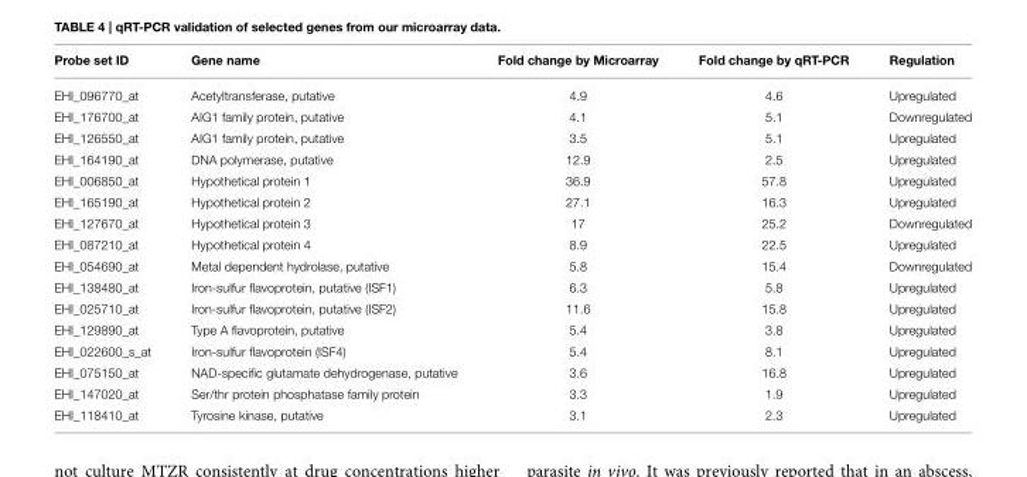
<table><thead><tr><td>Probe set ID</td><td>Gene name</td><td>Fold change by Microarray</td><td>Fold change by qRT-PCR</td><td>Regulation</td></tr></thead><tbody><tr><td>EHI_096770_at</td><td>Acetyltransferase, putative</td><td>4.9</td><td>4.6</td><td>Upregulated</td></tr><tr><td>EHI_176700_at</td><td>AIG1 family protein, putative</td><td>4.1</td><td>5.1</td><td>Downregulated</td></tr><tr><td>EHI_126550_at</td><td>AIG1 family protein, putative</td><td>3.5</td><td>5.1</td><td>Upregulated</td></tr><tr><td>EHI_164190_at</td><td>DNA polymerase, putative</td><td>12.9</td><td>2.5</td><td>Upregulated</td></tr><tr><td>EHI_006850_at</td><td>Hypothetical protein 1</td><td>36.9</td><td>57.8</td><td>Upregulated</td></tr><tr><td>EHI_165190_at</td><td>Hypothetical protein 2</td><td>27.1</td><td>16.3</td><td>Upregulated</td></tr><tr><td>EHI_127670_at</td><td>Hypothetical protein 3</td><td>17</td><td>25.2</td><td>Downregulated</td></tr><tr><td>EHI_087210_at</td><td>Hypothetical protein 4</td><td>8.9</td><td>22.5</td><td>Upregulated</td></tr><tr><td>EHI_054690_at</td><td>Metal dependent hydrolase, putative</td><td>5.8</td><td>15.4</td><td>Downregulated</td></tr><tr><td>EHI_138480_at</td><td>Iron-sulfur flavoprotein, putative (ISF1)</td><td>6.3</td><td>5.8</td><td>Upregulated</td></tr><tr><td>EHI_025710_at</td><td>Iron-sulfur flavoprotein, putative (ISF2)</td><td>11.6</td><td>15.8</td><td>Upregulated</td></tr><tr><td>EHI_129890_at</td><td>Type A flavoprotein, putative</td><td>5.4</td><td>3.8</td><td>Upregulated</td></tr><tr><td>EHI_022600_s_at</td><td>Iron-sulfur flavoprotein (ISF4)</td><td>5.4</td><td>8.1</td><td>Upregulated</td></tr><tr><td>EHI_075150_at</td><td>NAD-specific glutamate dehydrogenase, putative</td><td>3.6</td><td>16.8</td><td>Upregulated</td></tr><tr><td>EHI_147020_at</td><td>Ser/thr protein phosphatase family protein</td><td>3.3</td><td>1.9</td><td>Upregulated</td></tr><tr><td>EHI_118410_at</td><td>Tyrosine kinase, putative</td><td>3.1</td><td>2.3</td><td>Upregulated</td></tr></tbody></table>